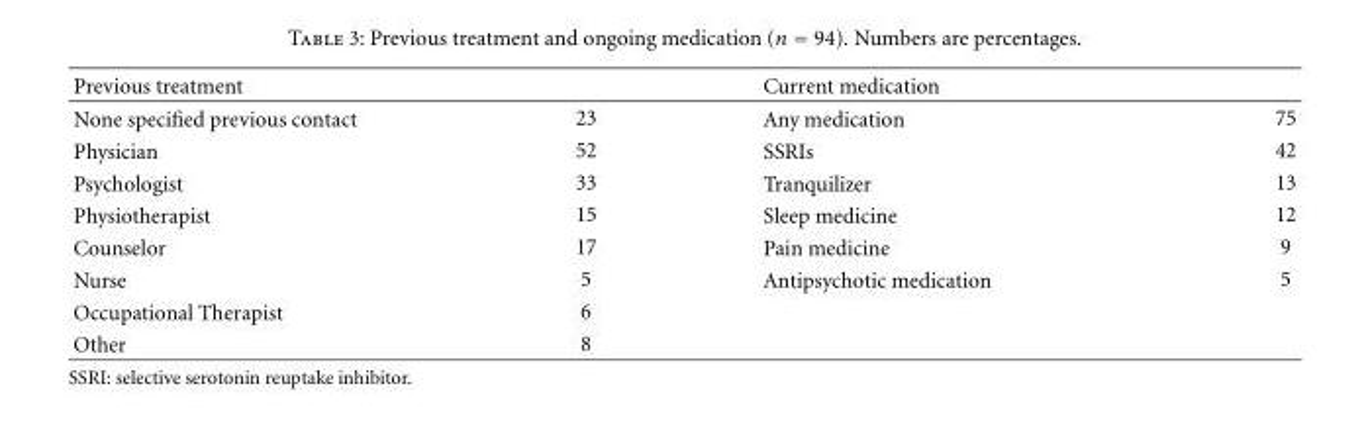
<table><thead><tr><td>Previous treatment</td><td></td><td>Current medication</td><td></td></tr></thead><tbody><tr><td>None specified previous contact</td><td>23</td><td>Any medication</td><td>75</td></tr><tr><td>Physician</td><td>52</td><td>SSRIs</td><td>42</td></tr><tr><td>Psychologist</td><td>33</td><td>Tranquilizer</td><td>13</td></tr><tr><td>Physiotherapist</td><td>15</td><td>Sleep medicine</td><td>12</td></tr><tr><td>Counselor</td><td>17</td><td>Pain medicine</td><td>9</td></tr><tr><td>Nurse</td><td>5</td><td>Antipsychotic medication</td><td>5</td></tr><tr><td>Occupational Therapist</td><td>6</td><td></td><td></td></tr><tr><td>Other</td><td>8</td><td></td><td></td></tr></tbody></table>